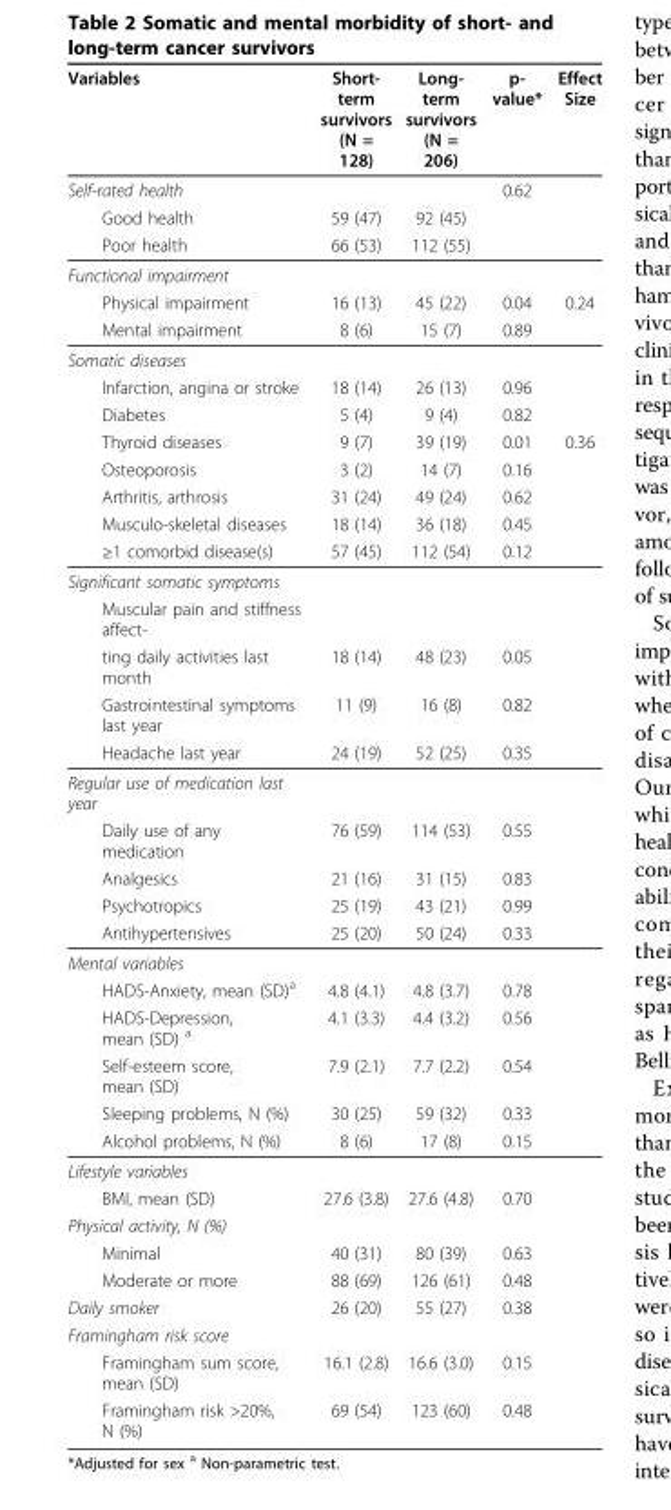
<table><thead><tr><td>Variables</td><td>Short- term survivors (N = 128)</td><td>Long- term survivors (N = 206)</td><td>p- value*</td><td>Effect Size</td></tr></thead><tbody><tr><td>Self-rated health</td><td></td><td></td><td>0.62</td><td></td></tr><tr><td>Good health</td><td>59 (47)</td><td>92 (45)</td><td></td><td></td></tr><tr><td>Poor health</td><td>66 (53)</td><td>112 (55)</td><td></td><td></td></tr><tr><td colspan="5">Functional impairment</td></tr><tr><td>Physical impairment</td><td>16 (13)</td><td>45 (22)</td><td>0.04</td><td>0.24</td></tr><tr><td>Mental impairment</td><td>8 (6)</td><td>15 (7)</td><td>0.89</td><td></td></tr><tr><td colspan="5">Somatic diseases</td></tr><tr><td>Infarction, angina or stroke</td><td>18 (14)</td><td>26 (13)</td><td>0.96</td><td></td></tr><tr><td>Diabetes</td><td>5 (4)</td><td>9 (4)</td><td>0.82</td><td></td></tr><tr><td>Thyroid diseases</td><td>9 (7)</td><td>39 (19)</td><td>0.01</td><td>0.36</td></tr><tr><td>Osteoporosis</td><td>3 (2)</td><td>14 (7)</td><td>0.16</td><td></td></tr><tr><td>Arthritis, arthrosis</td><td>31 (24)</td><td>49 (24)</td><td>0.62</td><td></td></tr><tr><td>Musculo-skeletal diseases</td><td>18 (14)</td><td>36 (18)</td><td>0.45</td><td></td></tr><tr><td>≥1 comorbid disease(s)</td><td>57 (45)</td><td>112 (54)</td><td>0.12</td><td></td></tr><tr><td colspan="5">Significant somatic symptoms</td></tr><tr><td colspan="5">Muscular pain and stiffness affect-</td></tr><tr><td>ting daily activities last month</td><td>18 (14)</td><td>48 (23)</td><td>0.05</td><td></td></tr><tr><td>Gastrointestinal symptoms last year</td><td>11 (9)</td><td>16 (8)</td><td>0.82</td><td></td></tr><tr><td>Headache last year</td><td>24 (19)</td><td>52 (25)</td><td>0.35</td><td></td></tr><tr><td colspan="5">Regular use of medication last year</td></tr><tr><td>Daily use of any medication</td><td>76 (59)</td><td>114 (53)</td><td>0.55</td><td></td></tr><tr><td>Analgesics</td><td>21 (16)</td><td>31 (15)</td><td>0.83</td><td></td></tr><tr><td>Psychotropics</td><td>25 (19)</td><td>43 (21)</td><td>0.99</td><td></td></tr><tr><td>Antihypertensives</td><td>25 (20)</td><td>50 (24)</td><td>0.33</td><td></td></tr><tr><td colspan="5">Mental variables</td></tr><tr><td>HADS-Anxiety, mean (SD)<sup>a</sup></td><td>4.8 (4.1)</td><td>4.8 (3.7)</td><td>0.78</td><td></td></tr><tr><td>HADS-Depression, mean (SD) <sup>a</sup></td><td>4.1 (3.3)</td><td>4.4 (3.2)</td><td>0.56</td><td></td></tr><tr><td>Self-esteem score, mean (SD)</td><td>7.9 (2.1)</td><td>7.7 (2.2)</td><td>0.54</td><td></td></tr><tr><td>Sleeping problems, N (%)</td><td>30 (25)</td><td>59 (32)</td><td>0.33</td><td></td></tr><tr><td>Alcohol problems, N (%)</td><td>8 (6)</td><td>17 (8)</td><td>0.15</td><td></td></tr><tr><td colspan="5">Lifestyle variables</td></tr><tr><td>BMI, mean (SD)</td><td>27.6 (3.8)</td><td>27.6 (4.8)</td><td>0.70</td><td></td></tr><tr><td colspan="5">Physical activity, N (%)</td></tr><tr><td>Minimal</td><td>40 (31)</td><td>80 (39)</td><td>0.63</td><td></td></tr><tr><td>Moderate or more</td><td>88 (69)</td><td>126 (61)</td><td>0.48</td><td></td></tr><tr><td>Daily smoker</td><td>26 (20)</td><td>55 (27)</td><td>0.38</td><td></td></tr><tr><td colspan="5">Framingham risk score</td></tr><tr><td>Framingham sum score, mean (SD)</td><td>16.1 (2.8)</td><td>16.6 (3.0)</td><td>0.15</td><td></td></tr><tr><td>Framingham risk &gt;20%, N (%)</td><td>69 (54)</td><td>123 (60)</td><td>0.48</td><td></td></tr></tbody></table>